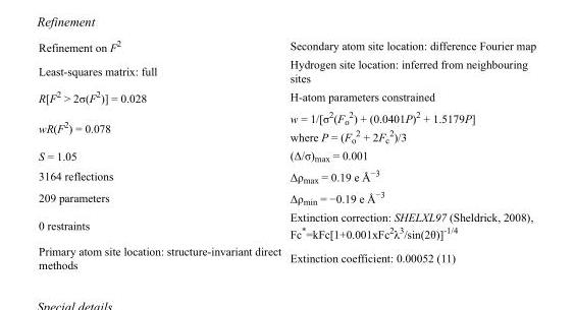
<table><tbody><tr><td>Refinement on F<sup>2</sup></td><td>Secondary atom site location: difference Fourier map</td></tr><tr><td>Least-squares matrix: full</td><td>Hydrogen site location: inferred from neighbouring sites</td></tr><tr><td>R[F<sup>2</sup> &gt; 2σ(F<sup>2</sup>)] = 0.028</td><td>H-atom parameters constrained</td></tr><tr><td>wR(F<sup>2</sup>) = 0.078</td><td>w = 1/[σ<sup>2</sup>(F<sub>o</sub> <sup>2</sup>) + (0.0401P)<sup>2</sup> + 1.5179P] where P = (F<sub>o</sub> <sup>2</sup> + 2F<sub>c</sub> <sup>2</sup>)/3</td></tr><tr><td>S = 1.05</td><td>(Δ/σ)<sub>max</sub> = 0.001</td></tr><tr><td>3164 reflections</td><td>Δρ<sub>max</sub> = 0.19 e Å<sup>−3</sup></td></tr><tr><td>209 parameters</td><td>Δρ<sub>min</sub> = −0.19 e Å<sup>−3</sup></td></tr><tr><td>0 restraints</td><td>Extinction correction: SHELXL97 (Sheldrick, 2008), Fc*=kFc[1+0.001xFc<sup>2</sup>λ<sup>3</sup>/sin(2θ)]<sup>-1/4</sup></td></tr><tr><td>Primary atom site location: structure-invariant direct methods</td><td>Extinction coefficient: 0.00052 (11)</td></tr></tbody></table>